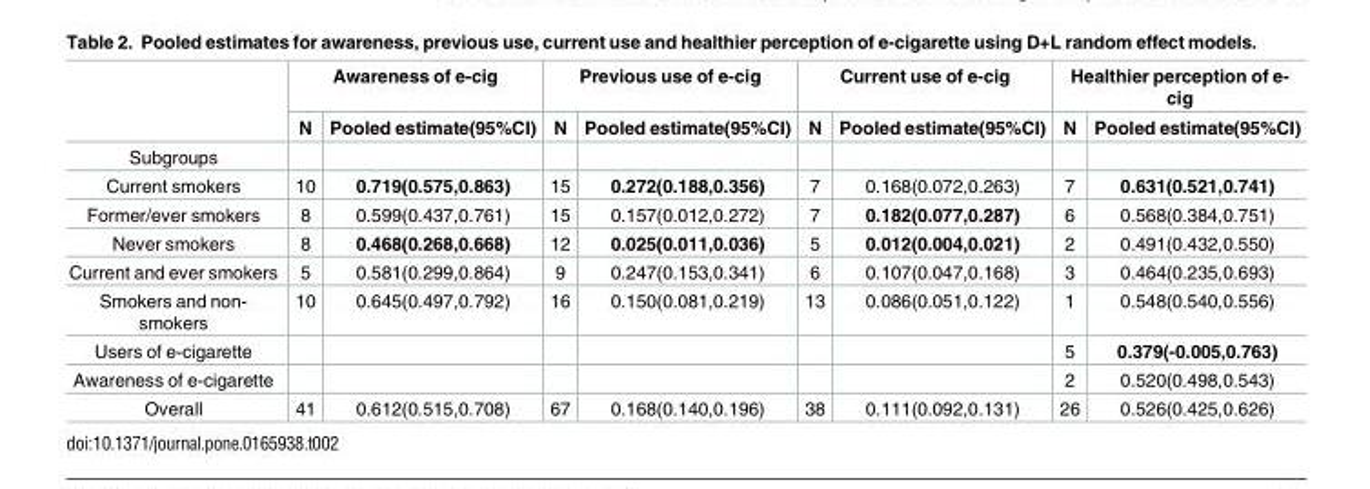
<table><thead><tr><td rowspan="2"></td><td colspan="2">Awareness of e-cig</td><td colspan="2">Previous use of e-cig</td><td colspan="2">Current use of e-cig</td><td colspan="2">Healthier perception of e- cig</td></tr><tr><td>N</td><td>Pooled estimate(95%CI)</td><td>N</td><td>Pooled estimate(95%CI)</td><td>N</td><td>Pooled estimate(95%CI)</td><td>N</td><td>Pooled estimate(95%CI)</td></tr></thead><tbody><tr><td colspan="9">Subgroups</td></tr><tr><td>Current smokers</td><td>10</td><td>0.719(0.575,0.863)</td><td>15</td><td>0.272(0.188,0.356)</td><td>7</td><td>0.168(0.072,0.263)</td><td>7</td><td>0.631(0.521,0.741)</td></tr><tr><td>Former/ever smokers</td><td>8</td><td>0.599(0.437,0.761)</td><td>15</td><td>0.157(0.012,0.272)</td><td>7</td><td>0.182(0.077,0.287)</td><td>6</td><td>0.568(0.384,0.751)</td></tr><tr><td>Never smokers</td><td>8</td><td>0.468(0.268,0.668)</td><td>12</td><td>0.025(0.011,0.036)</td><td>5</td><td>0.012(0.004,0.021)</td><td>2</td><td>0.491(0.432,0.550)</td></tr><tr><td>Current and ever smokers</td><td>5</td><td>0.581(0.299,0.864)</td><td>9</td><td>0.247(0.153,0.341)</td><td>6</td><td>0.107(0.047,0.168)</td><td>3</td><td>0.464(0.235,0.693)</td></tr><tr><td>Smokers and non- smokers</td><td>10</td><td>0.645(0.497,0.792)</td><td>16</td><td>0.150(0.081,0.219)</td><td>13</td><td>0.086(0.051,0.122)</td><td>1</td><td>0.548(0.540,0.556)</td></tr><tr><td>Users of e-cigarette</td><td></td><td></td><td></td><td></td><td></td><td></td><td>5</td><td>0.379(-0.005,0.763)</td></tr><tr><td>Awareness of e-cigarette</td><td></td><td></td><td></td><td></td><td></td><td></td><td>2</td><td>0.520(0.498,0.543)</td></tr><tr><td>Overall</td><td>41</td><td>0.612(0.515,0.708)</td><td>67</td><td>0.168(0.140,0.196)</td><td>38</td><td>0.111(0.092,0.131)</td><td>26</td><td>0.526(0.425,0.626)</td></tr></tbody></table>